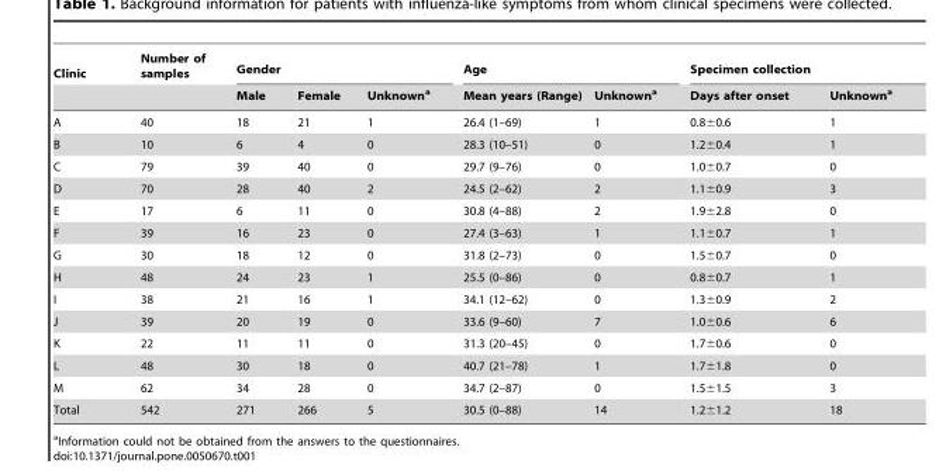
<table><thead><tr><td rowspan="2">Clinic</td><td rowspan="2">Number of samples</td><td colspan="3">Gender</td><td colspan="2">Age</td><td colspan="2">Specimen collection</td></tr><tr><td>Male</td><td>Female</td><td>Unknown<sup>a</sup></td><td>Mean years (Range)</td><td>Unknown<sup>a</sup></td><td>Days after onset</td><td>Unknown<sup>a</sup></td></tr></thead><tbody><tr><td>A</td><td>40</td><td>18</td><td>21</td><td>1</td><td>26.4 (1–69)</td><td>1</td><td>0.8±0.6</td><td>1</td></tr><tr><td>B</td><td>10</td><td>6</td><td>4</td><td>0</td><td>28.3 (10–51)</td><td>0</td><td>1.2±0.4</td><td>1</td></tr><tr><td>C</td><td>79</td><td>39</td><td>40</td><td>0</td><td>29.7 (9–76)</td><td>0</td><td>1.0±0.7</td><td>0</td></tr><tr><td>D</td><td>70</td><td>28</td><td>40</td><td>2</td><td>24.5 (2–62)</td><td>2</td><td>1.1±0.9</td><td>3</td></tr><tr><td>E</td><td>17</td><td>6</td><td>11</td><td>0</td><td>30.8 (4–88)</td><td>2</td><td>1.9±2.8</td><td>0</td></tr><tr><td>F</td><td>39</td><td>16</td><td>23</td><td>0</td><td>27.4 (3–63)</td><td>1</td><td>1.1±0.7</td><td>1</td></tr><tr><td>G</td><td>30</td><td>18</td><td>12</td><td>0</td><td>31.8 (2–73)</td><td>0</td><td>1.5±0.7</td><td>0</td></tr><tr><td>H</td><td>48</td><td>24</td><td>23</td><td>1</td><td>25.5 (0–86)</td><td>0</td><td>0.8±0.7</td><td>1</td></tr><tr><td>I</td><td>38</td><td>21</td><td>16</td><td>1</td><td>34.1 (12–62)</td><td>0</td><td>1.3±0.9</td><td>2</td></tr><tr><td>J</td><td>39</td><td>20</td><td>19</td><td>0</td><td>33.6 (9–60)</td><td>7</td><td>1.0±0.6</td><td>6</td></tr><tr><td>K</td><td>22</td><td>11</td><td>11</td><td>0</td><td>31.3 (20–45)</td><td>0</td><td>1.7±0.6</td><td>0</td></tr><tr><td>L</td><td>48</td><td>30</td><td>18</td><td>0</td><td>40.7 (21–78)</td><td>1</td><td>1.7±1.8</td><td>0</td></tr><tr><td>M</td><td>62</td><td>34</td><td>28</td><td>0</td><td>34.7 (2–87)</td><td>0</td><td>1.5±1.5</td><td>3</td></tr><tr><td>Total</td><td>542</td><td>271</td><td>266</td><td>5</td><td>30.5 (0–88)</td><td>14</td><td>1.2±1.2</td><td>18</td></tr></tbody></table>